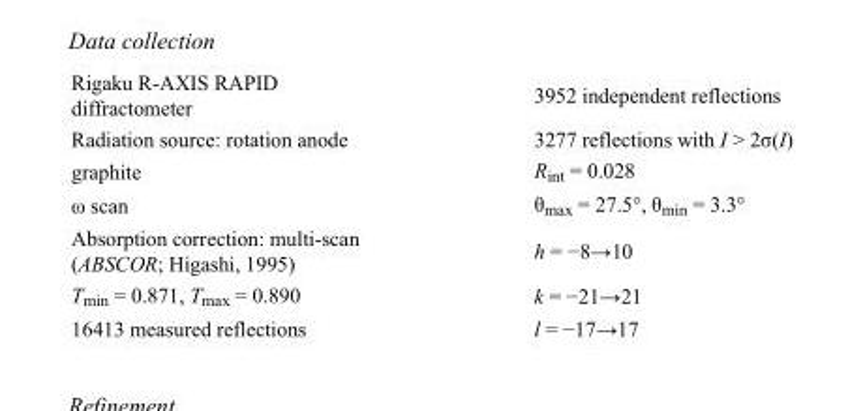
<table><tbody><tr><td>Rigaku R-AXIS RAPID diffractometer</td><td>3952 independent reflections</td></tr><tr><td>Radiation source: rotation anode</td><td>3277 reflections with I &gt; 2σ(I)</td></tr><tr><td>graphite</td><td>R<sub>int</sub> = 0.028</td></tr><tr><td>ω scan</td><td>θ<sub>max</sub> = 27.5°, θ<sub>min</sub> = 3.3°</td></tr><tr><td>Absorption correction: multi-scan (ABSCOR; Higashi, 1995)</td><td>h = −8→10</td></tr><tr><td>T<sub>min</sub> = 0.871, T<sub>max</sub> = 0.890</td><td>k = −21→21</td></tr><tr><td>16413 measured reflections</td><td>l = −17→17</td></tr></tbody></table>